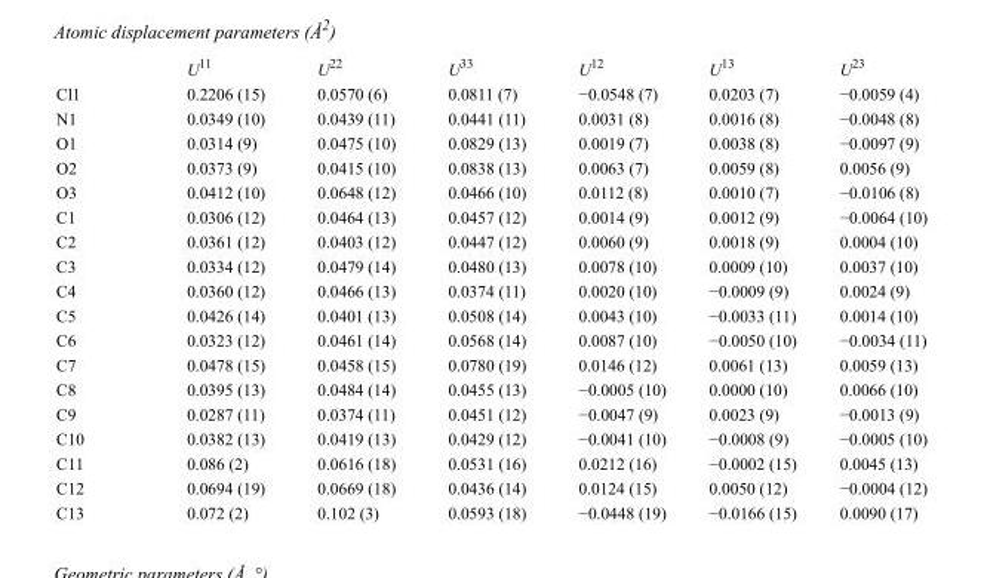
<table><thead><tr><td></td><td>U<sup>11</sup></td><td>U<sup>22</sup></td><td>U<sup>33</sup></td><td>U<sup>12</sup></td><td>U<sup>13</sup></td><td>U<sup>23</sup></td></tr></thead><tbody><tr><td>Cl1</td><td>0.2206 (15)</td><td>0.0570 (6)</td><td>0.0811 (7)</td><td>−0.0548 (7)</td><td>0.0203 (7)</td><td>−0.0059 (4)</td></tr><tr><td>N1</td><td>0.0349 (10)</td><td>0.0439 (11)</td><td>0.0441 (11)</td><td>0.0031 (8)</td><td>0.0016 (8)</td><td>−0.0048 (8)</td></tr><tr><td>O1</td><td>0.0314 (9)</td><td>0.0475 (10)</td><td>0.0829 (13)</td><td>0.0019 (7)</td><td>0.0038 (8)</td><td>−0.0097 (9)</td></tr><tr><td>O2</td><td>0.0373 (9)</td><td>0.0415 (10)</td><td>0.0838 (13)</td><td>0.0063 (7)</td><td>0.0059 (8)</td><td>0.0056 (9)</td></tr><tr><td>O3</td><td>0.0412 (10)</td><td>0.0648 (12)</td><td>0.0466 (10)</td><td>0.0112 (8)</td><td>0.0010 (7)</td><td>−0.0106 (8)</td></tr><tr><td>C1</td><td>0.0306 (12)</td><td>0.0464 (13)</td><td>0.0457 (12)</td><td>0.0014 (9)</td><td>0.0012 (9)</td><td>−0.0064 (10)</td></tr><tr><td>C2</td><td>0.0361 (12)</td><td>0.0403 (12)</td><td>0.0447 (12)</td><td>0.0060 (9)</td><td>0.0018 (9)</td><td>0.0004 (10)</td></tr><tr><td>C3</td><td>0.0334 (12)</td><td>0.0479 (14)</td><td>0.0480 (13)</td><td>0.0078 (10)</td><td>0.0009 (10)</td><td>0.0037 (10)</td></tr><tr><td>C4</td><td>0.0360 (12)</td><td>0.0466 (13)</td><td>0.0374 (11)</td><td>0.0020 (10)</td><td>−0.0009 (9)</td><td>0.0024 (9)</td></tr><tr><td>C5</td><td>0.0426 (14)</td><td>0.0401 (13)</td><td>0.0508 (14)</td><td>0.0043 (10)</td><td>−0.0033 (11)</td><td>0.0014 (10)</td></tr><tr><td>C6</td><td>0.0323 (12)</td><td>0.0461 (14)</td><td>0.0568 (14)</td><td>0.0087 (10)</td><td>−0.0050 (10)</td><td>−0.0034 (11)</td></tr><tr><td>C7</td><td>0.0478 (15)</td><td>0.0458 (15)</td><td>0.0780 (19)</td><td>0.0146 (12)</td><td>0.0061 (13)</td><td>0.0059 (13)</td></tr><tr><td>C8</td><td>0.0395 (13)</td><td>0.0484 (14)</td><td>0.0455 (13)</td><td>−0.0005 (10)</td><td>0.0000 (10)</td><td>0.0066 (10)</td></tr><tr><td>C9</td><td>0.0287 (11)</td><td>0.0374 (11)</td><td>0.0451 (12)</td><td>−0.0047 (9)</td><td>0.0023 (9)</td><td>−0.0013 (9)</td></tr><tr><td>C10</td><td>0.0382 (13)</td><td>0.0419 (13)</td><td>0.0429 (12)</td><td>−0.0041 (10)</td><td>−0.0008 (9)</td><td>−0.0005 (10)</td></tr><tr><td>C11</td><td>0.086 (2)</td><td>0.0616 (18)</td><td>0.0531 (16)</td><td>0.0212 (16)</td><td>−0.0002 (15)</td><td>0.0045 (13)</td></tr><tr><td>C12</td><td>0.0694 (19)</td><td>0.0669 (18)</td><td>0.0436 (14)</td><td>0.0124 (15)</td><td>0.0050 (12)</td><td>−0.0004 (12)</td></tr><tr><td>C13</td><td>0.072 (2)</td><td>0.102 (3)</td><td>0.0593 (18)</td><td>−0.0448 (19)</td><td>−0.0166 (15)</td><td>0.0090 (17)</td></tr></tbody></table>